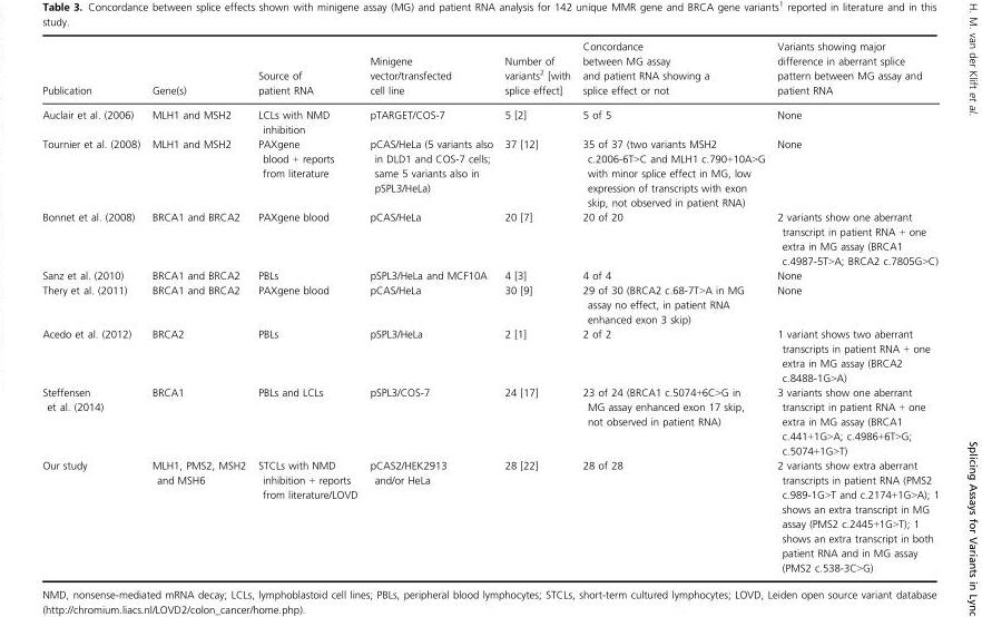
<table><thead><tr><td>Publication</td><td>Gene(s)</td><td>Source of patient RNA</td><td>Minigene vector/transfected cell line</td><td>Number of variants<sup>2</sup> [with splice effect]</td><td>Concordance between MG assay and patient RNA showing a splice effect or not</td><td>Variants showing major difference in aberrant splice pattern between MG assay and patient RNA</td></tr></thead><tbody><tr><td>Auclair et al. (2006)</td><td>MLH1 and MSH2</td><td>LCLs with NMD inhibition</td><td>pTARGET/COS-7</td><td>5 [2]</td><td>5 of 5</td><td>None</td></tr><tr><td>Tournier et al. (2008)</td><td>MLH1 and MSH2</td><td>PAXgene blood + reports from literature</td><td>pCAS/HeLa (5 variants also in DLD1 and COS-7 cells; same 5 variants also in pSPL3/HeLa)</td><td>37 [12]</td><td>35 of 37 (two variants MSH2 c.2006-6T&gt;C and MLH1 c.790+10A&gt;G with minor splice effect in MG, low expression of transcripts with exon skip, not observed in patient RNA)</td><td>None</td></tr><tr><td>Bonnet et al. (2008)</td><td>BRCA1 and BRCA2</td><td>PAXgene blood</td><td>pCAS/HeLa</td><td>20 [7]</td><td>20 of 20</td><td>2 variants show one aberrant transcript in patient RNA + one extra in MG assay (BRCA1 c.4987-5T&gt;A; BRCA2 c.7805G&gt;C)</td></tr><tr><td>Sanz et al. (2010)</td><td>BRCA1 and BRCA2</td><td>PBLs</td><td>pSPL3/HeLa and MCF10A</td><td>4 [3]</td><td>4 of 4</td><td>None</td></tr><tr><td>Thery et al. (2011)</td><td>BRCA1 and BRCA2</td><td>PAXgene blood</td><td>pCAS/HeLa</td><td>30 [9]</td><td>29 of 30 (BRCA2 c.68-7T&gt;A in MG assay no effect, in patient RNA enhanced exon 3 skip)</td><td>None</td></tr><tr><td>Acedo et al. (2012)</td><td>BRCA2</td><td>PBLs</td><td>pSPL3/HeLa</td><td>2 [1]</td><td>2 of 2</td><td>1 variant shows two aberrant transcripts in patient RNA + one extra in MG assay (BRCA2 c.8488-1G&gt;A)</td></tr><tr><td>Steffensen et al. (2014)</td><td>BRCA1</td><td>PBLs and LCLs</td><td>pSPL3/COS-7</td><td>24 [17]</td><td>23 of 24 (BRCA1 c.5074+6C&gt;G in MG assay enhanced exon 17 skip, not observed in patient RNA)</td><td>3 variants show one aberrant transcript in patient RNA + one extra in MG assay (BRCA1 c.441+1G&gt;A; c.4986+6T&gt;G; c.5074+1G&gt;T)</td></tr><tr><td>Our study</td><td>MLH1, PMS2, MSH2 and MSH6</td><td>STCLs with NMD inhibition + reports from literature/LOVD</td><td>pCAS2/HEK2913 and/or HeLa</td><td>28 [22]</td><td>28 of 28</td><td>2 variants show extra aberrant transcripts in patient RNA (PMS2 c.989-1G&gt;T and c.2174+1G&gt;A); 1 shows an extra transcript in MG assay (PMS2 c.2445+1G&gt;T); 1 shows an extra transcript in both patient RNA and in MG assay (PMS2 c.538-3C&gt;G)</td></tr></tbody></table>